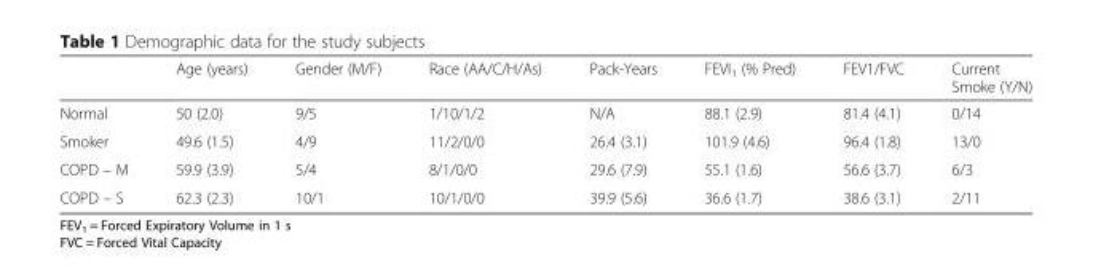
<table><thead><tr><td></td><td>Age (years)</td><td>Gender (M/F)</td><td>Race (AA/C/H/As)</td><td>Pack-Years</td><td>FEVI<sub>1</sub> (% Pred)</td><td>FEV1/FVC</td><td>Current Smoke (Y/N)</td></tr></thead><tbody><tr><td>Normal</td><td>50 (2.0)</td><td>9/5</td><td>1/10/1/2</td><td>N/A</td><td>88.1 (2.9)</td><td>81.4 (4.1)</td><td>0/14</td></tr><tr><td>Smoker</td><td>49.6 (1.5)</td><td>4/9</td><td>11/2/0/0</td><td>26.4 (3.1)</td><td>101.9 (4.6)</td><td>96.4 (1.8)</td><td>13/0</td></tr><tr><td>COPD – M</td><td>59.9 (3.9)</td><td>5/4</td><td>8/1/0/0</td><td>29.6 (7.9)</td><td>55.1 (1.6)</td><td>56.6 (3.7)</td><td>6/3</td></tr><tr><td>COPD – S</td><td>62.3 (2.3)</td><td>10/1</td><td>10/1/0/0</td><td>39.9 (5.6)</td><td>36.6 (1.7)</td><td>38.6 (3.1)</td><td>2/11</td></tr></tbody></table>